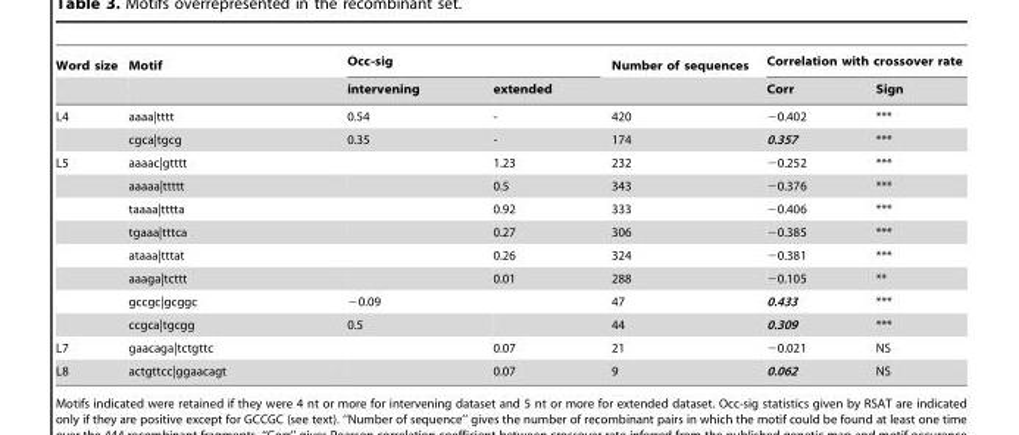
<table><thead><tr><td rowspan="2">Word size</td><td rowspan="2">Motif</td><td colspan="2">Occ-sig</td><td rowspan="2">Number of sequences</td><td colspan="2">Correlation with crossover rate</td></tr><tr><td>intervening</td><td>extended</td><td>Corr</td><td>Sign</td></tr></thead><tbody><tr><td rowspan="2">L4</td><td>aaaa|tttt</td><td>0.54</td><td>-</td><td>420</td><td>−0.402</td><td>***</td></tr><tr><td>cgca|tgcg</td><td>0.35</td><td>-</td><td>174</td><td>0.357</td><td>***</td></tr><tr><td rowspan="8">L5</td><td>aaaac|gtttt</td><td></td><td>1.23</td><td>232</td><td>−0.252</td><td>***</td></tr><tr><td>aaaaa|ttttt</td><td></td><td>0.5</td><td>343</td><td>−0.376</td><td>***</td></tr><tr><td>taaaa|tttta</td><td></td><td>0.92</td><td>333</td><td>−0.406</td><td>***</td></tr><tr><td>tgaaa|tttca</td><td></td><td>0.27</td><td>306</td><td>−0.385</td><td>***</td></tr><tr><td>ataaa|tttat</td><td></td><td>0.26</td><td>324</td><td>−0.381</td><td>***</td></tr><tr><td>aaaga|tcttt</td><td></td><td>0.01</td><td>288</td><td>−0.105</td><td>**</td></tr><tr><td>gccgc|gcggc</td><td>−0.09</td><td></td><td>47</td><td>0.433</td><td>***</td></tr><tr><td>ccgca|tgcgg</td><td>0.5</td><td></td><td>44</td><td>0.309</td><td>***</td></tr><tr><td>L7</td><td>gaacaga|tctgttc</td><td></td><td>0.07</td><td>21</td><td>−0.021</td><td>NS</td></tr><tr><td>L8</td><td>actgttcc|ggaacagt</td><td></td><td>0.07</td><td>9</td><td>0.062</td><td>NS</td></tr></tbody></table>